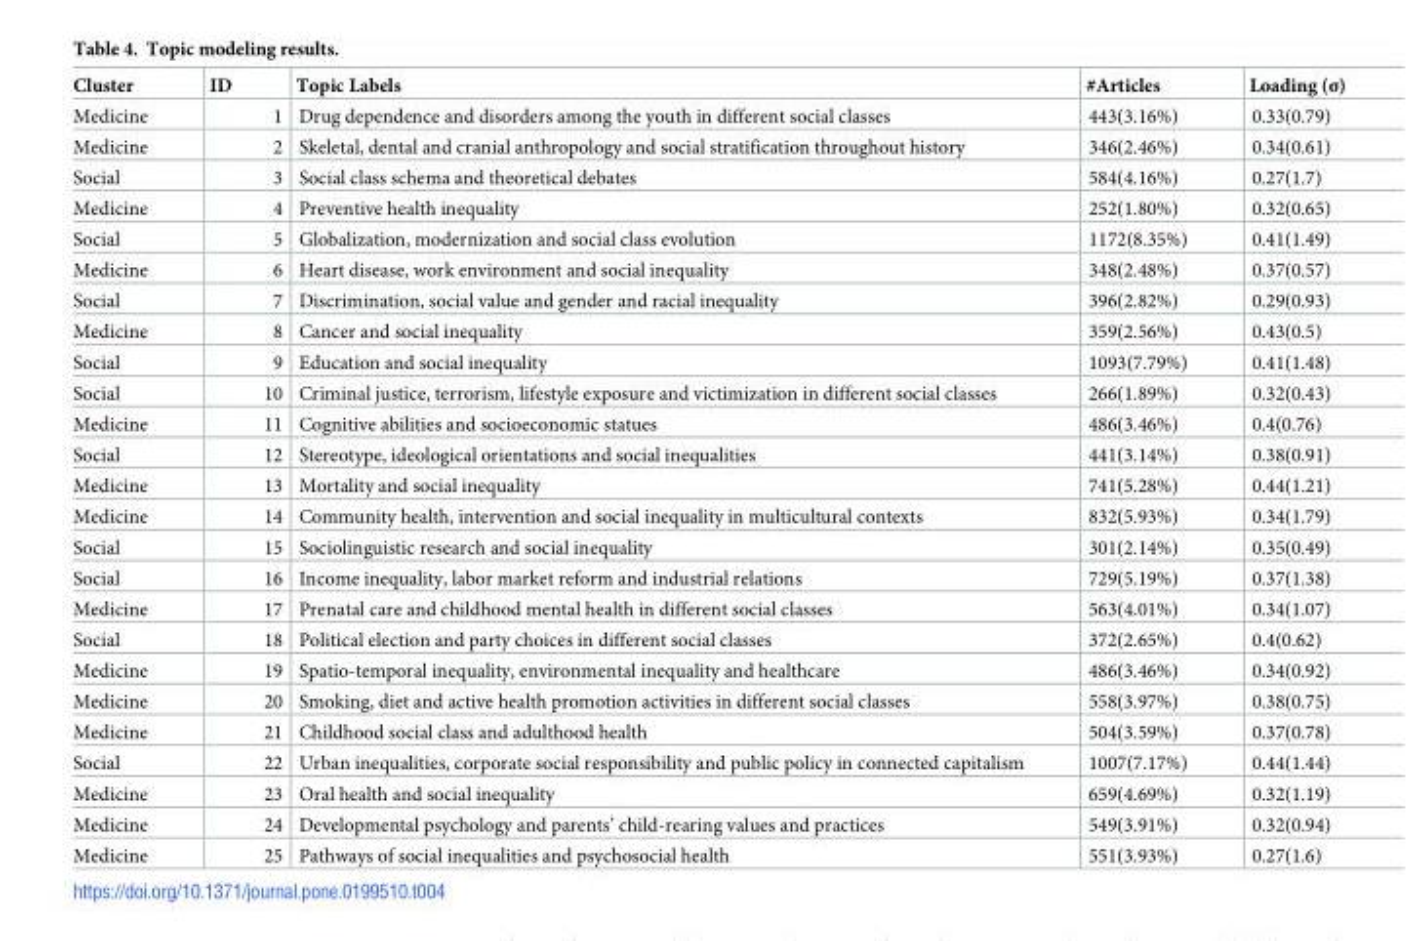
<table><thead><tr><td>Cluster</td><td>ID</td><td>Topic Labels</td><td>#Articles</td><td>Loading (σ)</td></tr></thead><tbody><tr><td>Medicine</td><td>1</td><td>Drug dependence and disorders among the youth in different social classes</td><td>443(3.16%)</td><td>0.33(0.79)</td></tr><tr><td>Medicine</td><td>2</td><td>Skeletal, dental and cranial anthropology and social stratification throughout history</td><td>346(2.46%)</td><td>0.34(0.61)</td></tr><tr><td>Social</td><td>3</td><td>Social class schema and theoretical debates</td><td>584(4.16%)</td><td>0.27(1.7)</td></tr><tr><td>Medicine</td><td>4</td><td>Preventive health inequality</td><td>252(1.80%)</td><td>0.32(0.65)</td></tr><tr><td>Social</td><td>5</td><td>Globalization, modernization and social class evolution</td><td>1172(8.35%)</td><td>0.41(1.49)</td></tr><tr><td>Medicine</td><td>6</td><td>Heart disease, work environment and social inequality</td><td>348(2.48%)</td><td>0.37(0.57)</td></tr><tr><td>Social</td><td>7</td><td>Discrimination, social value and gender and racial inequality</td><td>396(2.82%)</td><td>0.29(0.93)</td></tr><tr><td>Medicine</td><td>8</td><td>Cancer and social inequality</td><td>359(2.56%)</td><td>0.43(0.5)</td></tr><tr><td>Social</td><td>9</td><td>Education and social inequality</td><td>1093(7.79%)</td><td>0.41(1.48)</td></tr><tr><td>Social</td><td>10</td><td>Criminal justice, terrorism, lifestyle exposure and victimization in different social classes</td><td>266(1.89%)</td><td>0.32(0.43)</td></tr><tr><td>Medicine</td><td>11</td><td>Cognitive abilities and socioeconomic statues</td><td>486(3.46%)</td><td>0.4(0.76)</td></tr><tr><td>Social</td><td>12</td><td>Stereotype, ideological orientations and social inequalities</td><td>441(3.14%)</td><td>0.38(0.91)</td></tr><tr><td>Medicine</td><td>13</td><td>Mortality and social inequality</td><td>741(5.28%)</td><td>0.44(1.21)</td></tr><tr><td>Medicine</td><td>14</td><td>Community health, intervention and social inequality in multicultural contexts</td><td>832(5.93%)</td><td>0.34(1.79)</td></tr><tr><td>Social</td><td>15</td><td>Sociolinguistic research and social inequality</td><td>301(2.14%)</td><td>0.35(0.49)</td></tr><tr><td>Social</td><td>16</td><td>Income inequality, labor market reform and industrial relations</td><td>729(5.19%)</td><td>0.37(1.38)</td></tr><tr><td>Medicine</td><td>17</td><td>Prenatal care and childhood mental health in different social classes</td><td>563(4.01%)</td><td>0.34(1.07)</td></tr><tr><td>Social</td><td>18</td><td>Political election and party choices in different social classes</td><td>372(2.65%)</td><td>0.4(0.62)</td></tr><tr><td>Medicine</td><td>19</td><td>Spatio-temporal inequality, environmental inequality and healthcare</td><td>486(3.46%)</td><td>0.34(0.92)</td></tr><tr><td>Medicine</td><td>20</td><td>Smoking, diet and active health promotion activities in different social classes</td><td>558(3.97%)</td><td>0.38(0.75)</td></tr><tr><td>Medicine</td><td>21</td><td>Childhood social class and adulthood health</td><td>504(3.59%)</td><td>0.37(0.78)</td></tr><tr><td>Social</td><td>22</td><td>Urban inequalities, corporate social responsibility and public policy in connected capitalism</td><td>1007(7.17%)</td><td>0.44(1.44)</td></tr><tr><td>Medicine</td><td>23</td><td>Oral health and social inequality</td><td>659(4.69%)</td><td>0.32(1.19)</td></tr><tr><td>Medicine</td><td>24</td><td>Developmental psychology and parents’ child-rearing values and practices</td><td>549(3.91%)</td><td>0.32(0.94)</td></tr><tr><td>Medicine</td><td>25</td><td>Pathways of social inequalities and psychosocial health</td><td>551(3.93%)</td><td>0.27(1.6)</td></tr></tbody></table>